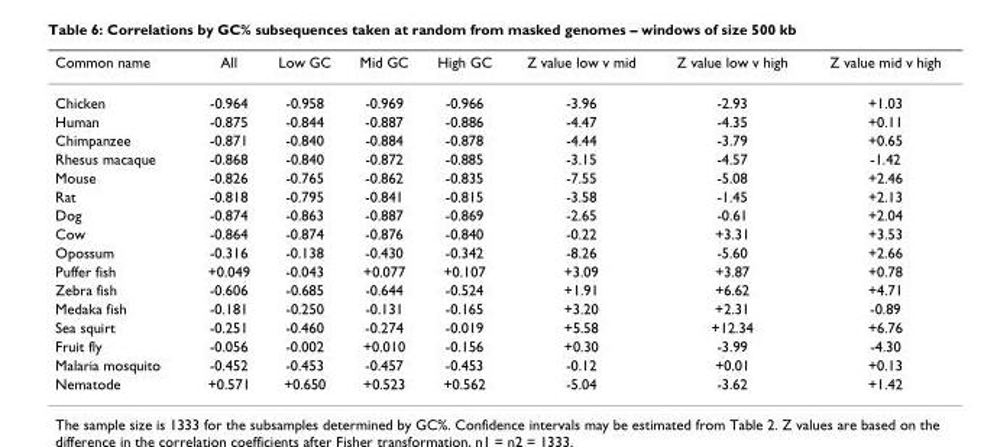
<table><thead><tr><td>Common name</td><td>All</td><td>Low GC</td><td>Mid GC</td><td>High GC</td><td>Z value low v mid</td><td>Z value low v high</td><td>Z value mid v high</td></tr></thead><tbody><tr><td>Chicken</td><td>-0.964</td><td>-0.958</td><td>-0.969</td><td>-0.966</td><td>-3.96</td><td>-2.93</td><td>+1.03</td></tr><tr><td>Human</td><td>-0.875</td><td>-0.844</td><td>-0.887</td><td>-0.886</td><td>-4.47</td><td>-4.35</td><td>+0.11</td></tr><tr><td>Chimpanzee</td><td>-0.871</td><td>-0.840</td><td>-0.884</td><td>-0.878</td><td>-4.44</td><td>-3.79</td><td>+0.65</td></tr><tr><td>Rhesus macaque</td><td>-0.868</td><td>-0.840</td><td>-0.872</td><td>-0.885</td><td>-3.15</td><td>-4.57</td><td>-1.42</td></tr><tr><td>Mouse</td><td>-0.826</td><td>-0.765</td><td>-0.862</td><td>-0.835</td><td>-7.55</td><td>-5.08</td><td>+2.46</td></tr><tr><td>Rat</td><td>-0.818</td><td>-0.795</td><td>-0.841</td><td>-0.815</td><td>-3.58</td><td>-1.45</td><td>+2.13</td></tr><tr><td>Dog</td><td>-0.874</td><td>-0.863</td><td>-0.887</td><td>-0.869</td><td>-2.65</td><td>-0.61</td><td>+2.04</td></tr><tr><td>Cow</td><td>-0.864</td><td>-0.874</td><td>-0.876</td><td>-0.840</td><td>-0.22</td><td>+3.31</td><td>+3.53</td></tr><tr><td>Opossum</td><td>-0.316</td><td>-0.138</td><td>-0.430</td><td>-0.342</td><td>-8.26</td><td>-5.60</td><td>+2.66</td></tr><tr><td>Puffer fish</td><td>+0.049</td><td>-0.043</td><td>+0.077</td><td>+0.107</td><td>+3.09</td><td>+3.87</td><td>+0.78</td></tr><tr><td>Zebra fish</td><td>-0.606</td><td>-0.685</td><td>-0.644</td><td>-0.524</td><td>+1.91</td><td>+6.62</td><td>+4.71</td></tr><tr><td>Medaka fish</td><td>-0.181</td><td>-0.250</td><td>-0.131</td><td>-0.165</td><td>+3.20</td><td>+2.31</td><td>-0.89</td></tr><tr><td>Sea squirt</td><td>-0.251</td><td>-0.460</td><td>-0.274</td><td>-0.019</td><td>+5.58</td><td>+12.34</td><td>+6.76</td></tr><tr><td>Fruit fly</td><td>-0.056</td><td>-0.002</td><td>+0.010</td><td>-0.156</td><td>+0.30</td><td>-3.99</td><td>-4.30</td></tr><tr><td>Malaria mosquito</td><td>-0.452</td><td>-0.453</td><td>-0.457</td><td>-0.453</td><td>-0.12</td><td>+0.01</td><td>+0.13</td></tr><tr><td>Nematode</td><td>+0.571</td><td>+0.650</td><td>+0.523</td><td>+0.562</td><td>-5.04</td><td>-3.62</td><td>+1.42</td></tr></tbody></table>